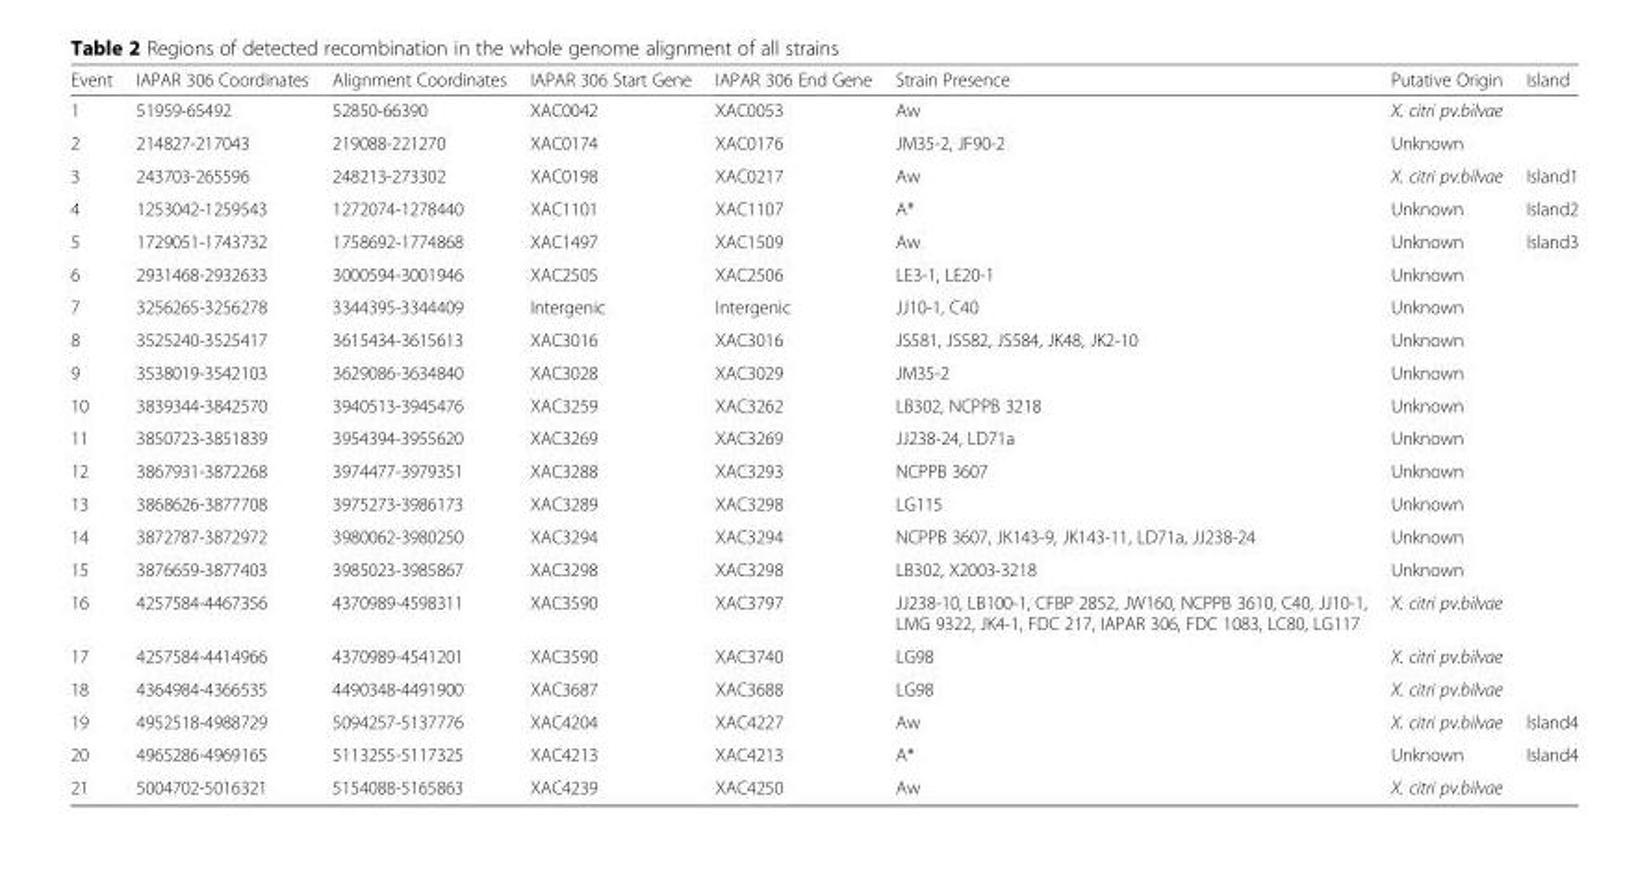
<table><thead><tr><td>Event</td><td>IAPAR 306 Coordinates</td><td>Alignment Coordinates</td><td>IAPAR 306 Start Gene</td><td>IAPAR 306 End Gene</td><td>Strain Presence</td><td>Putative Origin</td><td>Island</td></tr></thead><tbody><tr><td>1</td><td>51959-65492</td><td>52850-66390</td><td>XAC0042</td><td>XAC0053</td><td>Aw</td><td>X. citri pv.bilvae</td><td></td></tr><tr><td>2</td><td>214827-217043</td><td>219088-221270</td><td>XAC0174</td><td>XAC0176</td><td>JM35-2, JF90-2</td><td>Unknown</td><td></td></tr><tr><td>3</td><td>243703-265596</td><td>248213-273302</td><td>XAC0198</td><td>XAC0217</td><td>Aw</td><td>X. citri pv.bilvae</td><td>Island1</td></tr><tr><td>4</td><td>1253042-1259543</td><td>1272074-1278440</td><td>XAC1101</td><td>XAC1107</td><td>A*</td><td>Unknown</td><td>Island2</td></tr><tr><td>5</td><td>1729051-1743732</td><td>1758692-1774868</td><td>XAC1497</td><td>XAC1509</td><td>Aw</td><td>Unknown</td><td>Island3</td></tr><tr><td>6</td><td>2931468-2932633</td><td>3000594-3001946</td><td>XAC2505</td><td>XAC2506</td><td>LE3-1, LE20-1</td><td>Unknown</td><td></td></tr><tr><td>7</td><td>3256265-3256278</td><td>3344395-3344409</td><td>Intergenic</td><td>Intergenic</td><td>JJ10-1, C40</td><td>Unknown</td><td></td></tr><tr><td>8</td><td>3525240-3525417</td><td>3615434-3615613</td><td>XAC3016</td><td>XAC3016</td><td>JS581, JS582, JS584, JK48, JK2-10</td><td>Unknown</td><td></td></tr><tr><td>9</td><td>3538019-3542103</td><td>3629086-3634840</td><td>XAC3028</td><td>XAC3029</td><td>JM35-2</td><td>Unknown</td><td></td></tr><tr><td>10</td><td>3839344-3842570</td><td>3940513-3945476</td><td>XAC3259</td><td>XAC3262</td><td>LB302, NCPPB 3218</td><td>Unknown</td><td></td></tr><tr><td>11</td><td>3850723-3851839</td><td>3954394-3955620</td><td>XAC3269</td><td>XAC3269</td><td>JJ238-24, LD71a</td><td>Unknown</td><td></td></tr><tr><td>12</td><td>3867931-3872268</td><td>3974477-3979351</td><td>XAC3288</td><td>XAC3293</td><td>NCPPB 3607</td><td>Unknown</td><td></td></tr><tr><td>13</td><td>3868626-3877708</td><td>3975273-3986173</td><td>XAC3289</td><td>XAC3298</td><td>LG115</td><td>Unknown</td><td></td></tr><tr><td>14</td><td>3872787-3872972</td><td>3980062-3980250</td><td>XAC3294</td><td>XAC3294</td><td>NCPPB 3607, JK143-9, JK143-11, LD71a, JJ238-24</td><td>Unknown</td><td></td></tr><tr><td>15</td><td>3876659-3877403</td><td>3985023-3985867</td><td>XAC3298</td><td>XAC3298</td><td>LB302, X2003-3218</td><td>Unknown</td><td></td></tr><tr><td>16</td><td>4257584-4467356</td><td>4370989-4598311</td><td>XAC3590</td><td>XAC3797</td><td>JJ238-10, LB100-1, CFBP 2852, JW160, NCPPB 3610, C40, JJ10-1, LMG 9322, JK4-1, FDC 217, IAPAR 306, FDC 1083, LC80, LG117</td><td>X. citri pv.bilvae</td><td></td></tr><tr><td>17</td><td>4257584-4414966</td><td>4370989-4541201</td><td>XAC3590</td><td>XAC3740</td><td>LG98</td><td>X. citri pv.bilvae</td><td></td></tr><tr><td>18</td><td>4364984-4366535</td><td>4490348-4491900</td><td>XAC3687</td><td>XAC3688</td><td>LG98</td><td>X. citri pv.bilvae</td><td></td></tr><tr><td>19</td><td>4952518-4988729</td><td>5094257-5137776</td><td>XAC4204</td><td>XAC4227</td><td>Aw</td><td>X. citri pv.bilvae</td><td>Island4</td></tr><tr><td>20</td><td>4965286-4969165</td><td>5113255-5117325</td><td>XAC4213</td><td>XAC4213</td><td>A*</td><td>Unknown</td><td>Island4</td></tr><tr><td>21</td><td>5004702-5016321</td><td>5154088-5165863</td><td>XAC4239</td><td>XAC4250</td><td>Aw</td><td>X. citri pv.bilvae</td><td></td></tr></tbody></table>